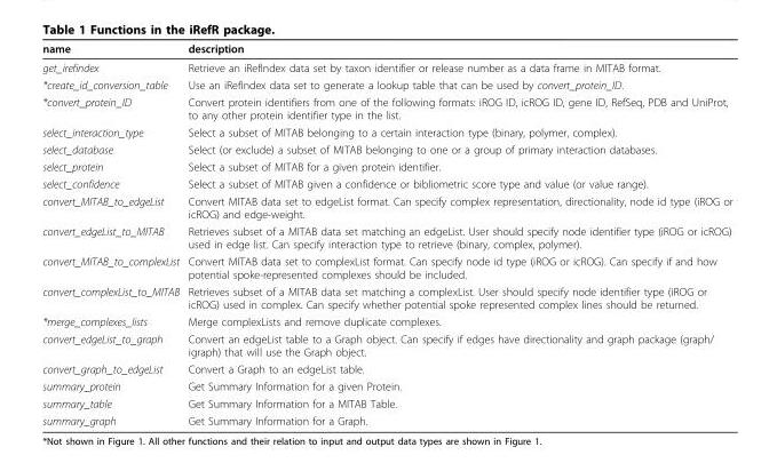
<table><thead><tr><td>name</td><td>description</td></tr></thead><tbody><tr><td>get_irefindex</td><td>Retrieve an iRefIndex data set by taxon identifier or release number as a data frame in MITAB format.</td></tr><tr><td>*create_id_conversion_table</td><td>Use an iRefIndex data set to generate a lookup table that can be used by convert_protein_ID.</td></tr><tr><td>*convert_protein_ID</td><td>Convert protein identifiers from one of the following formats: iROG ID, icROG ID, gene ID, RefSeq, PDB and UniProt, to any other protein identifier type in the list.</td></tr><tr><td>select_interaction_type</td><td>Select a subset of MITAB belonging to a certain interaction type (binary, polymer, complex).</td></tr><tr><td>select_database</td><td>Select (or exclude) a subset of MITAB belonging to one or a group of primary interaction databases.</td></tr><tr><td>select_protein</td><td>Select a subset of MITAB for a given protein identifier.</td></tr><tr><td>select_confidence</td><td>Select a subset of MITAB given a confidence or bibliometric score type and value (or value range).</td></tr><tr><td>convert_MITAB_to_edgeList</td><td>Convert MITAB data set to edgeList format. Can specify complex representation, directionality, node id type (iROG or icROG) and edge-weight.</td></tr><tr><td>convert_edgeList_to_MITAB</td><td>Retrieves subset of a MITAB data set matching an edgeList. User should specify node identifier type (iROG or icROG) used in edge list. Can specify interaction type to retrieve (binary, complex, polymer).</td></tr><tr><td>convert_MITAB_to_complexList</td><td>Convert MITAB data set to complexList format. Can specify node id type (iROG or icROG). Can specify if and how potential spoke-represented complexes should be included.</td></tr><tr><td>convert_complexList_to_MITAB</td><td>Retrieves subset of a MITAB data set matching a complexList. User should specify node identifier type (iROG or icROG) used in complex. Can specify whether potential spoke represented complex lines should be returned.</td></tr><tr><td>*merge_complexes_lists</td><td>Merge complexLists and remove duplicate complexes.</td></tr><tr><td>convert_edgeList_to_graph</td><td>Convert an edgeList table to a Graph object. Can specify if edges have directionality and graph package (graph/ igraph) that will use the Graph object.</td></tr><tr><td>convert_graph_to_edgeList</td><td>Convert a Graph to an edgeList table.</td></tr><tr><td>summary_protein</td><td>Get Summary Information for a given Protein.</td></tr><tr><td>summary_table</td><td>Get Summary Information for a MITAB Table.</td></tr><tr><td>summary_graph</td><td>Get Summary Information for a Graph.</td></tr></tbody></table>